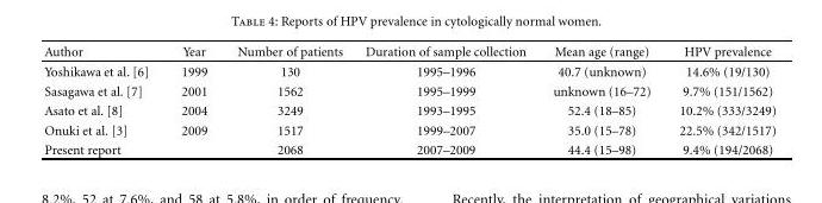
<table><thead><tr><td>Author</td><td>Year</td><td>Number of patients</td><td>Duration of sample collection</td><td>Mean age (range)</td><td>HPV prevalence</td></tr></thead><tbody><tr><td>Yoshikawa et al. [6]</td><td>1999</td><td>130</td><td>1995–1996</td><td>40.7 (unknown)</td><td>14.6% (19/130)</td></tr><tr><td>Sasagawa et al. [7]</td><td>2001</td><td>1562</td><td>1995–1999</td><td>unknown (16–72)</td><td>9.7% (151/1562)</td></tr><tr><td>Asato et al. [8]</td><td>2004</td><td>3249</td><td>1993–1995</td><td>52.4 (18–85)</td><td>10.2% (333/3249)</td></tr><tr><td>Onuki et al. [3]</td><td>2009</td><td>1517</td><td>1999–2007</td><td>35.0 (15–78)</td><td>22.5% (342/1517)</td></tr><tr><td>Present report</td><td></td><td>2068</td><td>2007–2009</td><td>44.4 (15–98)</td><td>9.4% (194/2068)</td></tr></tbody></table>